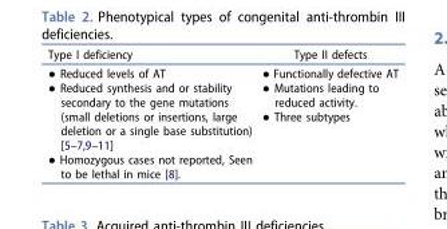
<table><thead><tr><td>Type I deficiency</td><td>Type II defects</td></tr></thead><tbody><tr><td>● Reduced levels of AT ● Reduced synthesis and or stability secondary to the gene mutations (small deletions or insertions, large deletion or a single base substitution) [5–7,9–11] ● Homozygous cases not reported, Seen to be lethal in mice [8].</td><td>● Functionally defective AT ● Mutations leading to reduced activity. ● Three subtypes</td></tr></tbody></table>